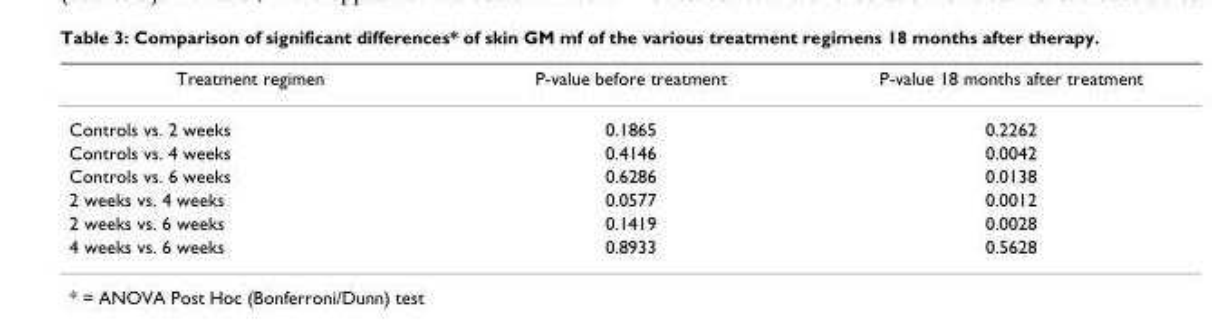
<table><thead><tr><td>Treatment regimen</td><td>P-value before treatment</td><td>P-value 18 months after treatment</td></tr></thead><tbody><tr><td>Controls vs. 2 weeks</td><td>0.1865</td><td>0.2262</td></tr><tr><td>Controls vs. 4 weeks</td><td>0.4146</td><td>0.0042</td></tr><tr><td>Controls vs. 6 weeks</td><td>0.6286</td><td>0.0138</td></tr><tr><td>2 weeks vs. 4 weeks</td><td>0.0577</td><td>0.0012</td></tr><tr><td>2 weeks vs. 6 weeks</td><td>0.1419</td><td>0.0028</td></tr><tr><td>4 weeks vs. 6 weeks</td><td>0.8933</td><td>0.5628</td></tr></tbody></table>